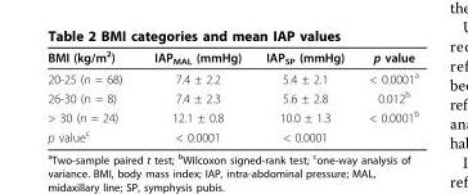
<table><thead><tr><td>BMI (kg/m<sup>2</sup>)</td><td>IAP<sub>MAL</sub> (mmHg)</td><td>IAP<sub>SP</sub> (mmHg)</td><td>p value</td></tr></thead><tbody><tr><td>20-25 (n = 68)</td><td>7.4 ± 2.2</td><td>5.4 ± 2.1</td><td>&lt; 0.0001<sup>a</sup></td></tr><tr><td>26-30 (n = 8)</td><td>7.4 ± 2.3</td><td>5.6 ± 2.8</td><td>0.012<sup>b</sup></td></tr><tr><td>&gt; 30 (n = 24)</td><td>12.1 ± 0.8</td><td>10.0 ± 1.3</td><td>&lt; 0.0001<sup>b</sup></td></tr><tr><td>p value<sup>c</sup></td><td>&lt; 0.0001</td><td>&lt; 0.0001</td><td></td></tr></tbody></table>